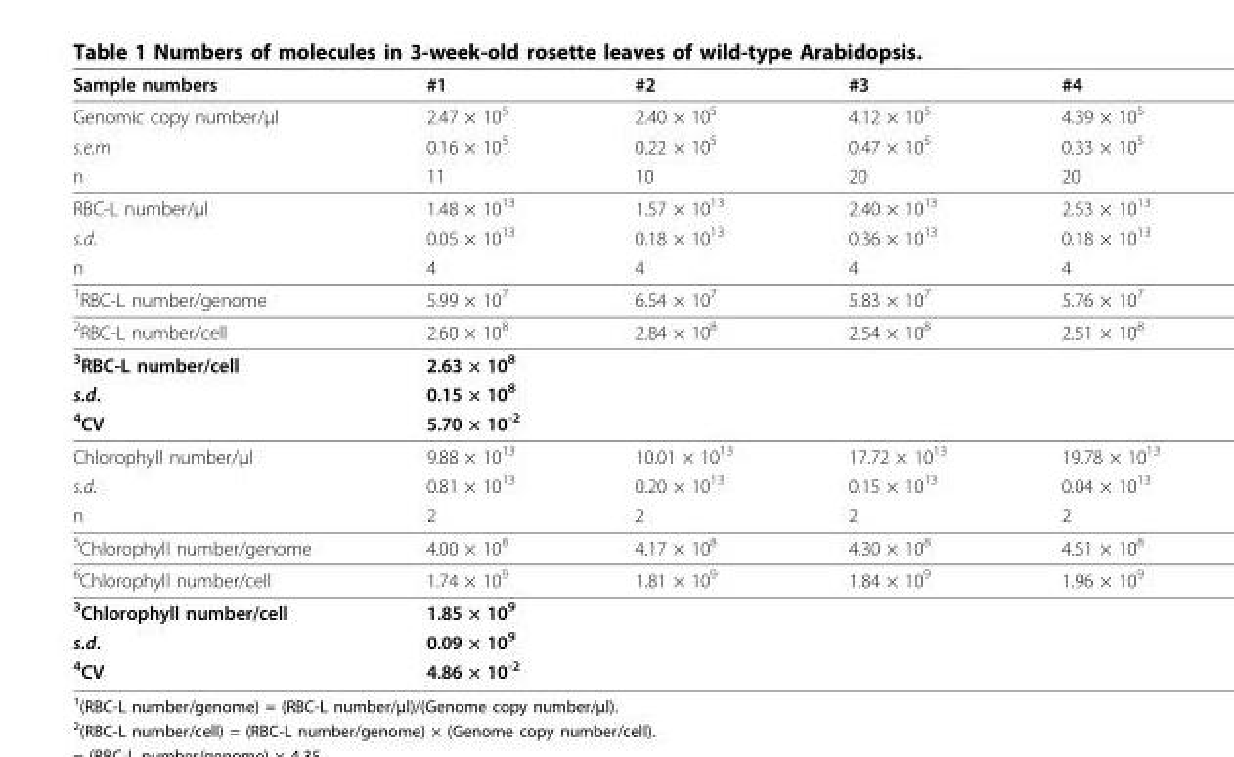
<table><thead><tr><td>Sample numbers</td><td>#1</td><td>#2</td><td>#3</td><td>#4</td></tr></thead><tbody><tr><td>Genomic copy number/μl</td><td>2.47 × 10<sup>5</sup></td><td>2.40 × 10<sup>5</sup></td><td>4.12 × 10<sup>5</sup></td><td>4.39 × 10<sup>5</sup></td></tr><tr><td>s.e.m</td><td>0.16 × 10<sup>5</sup></td><td>0.22 × 10<sup>5</sup></td><td>0.47 × 10<sup>5</sup></td><td>0.33 × 10<sup>5</sup></td></tr><tr><td>n</td><td>11</td><td>10</td><td>20</td><td>20</td></tr><tr><td>RBC-L number/μl</td><td>1.48 × 10<sup>13</sup></td><td>1.57 × 10<sup>13</sup></td><td>2.40 × 10<sup>13</sup></td><td>2.53 × 10<sup>13</sup></td></tr><tr><td>s.d.</td><td>0.05 × 10<sup>13</sup></td><td>0.18 × 10<sup>13</sup></td><td>0.36 × 10<sup>13</sup></td><td>0.18 × 10<sup>13</sup></td></tr><tr><td>n</td><td>4</td><td>4</td><td>4</td><td>4</td></tr><tr><td><sup>1</sup>RBC-L number/genome</td><td>5.99 × 10<sup>7</sup></td><td>6.54 × 10<sup>7</sup></td><td>5.83 × 10<sup>7</sup></td><td>5.76 × 10<sup>7</sup></td></tr><tr><td><sup>2</sup>RBC-L number/cell</td><td>2.60 × 10<sup>8</sup></td><td>2.84 × 10<sup>8</sup></td><td>2.54 × 10<sup>8</sup></td><td>2.51 × 10<sup>8</sup></td></tr><tr><td><sup>3</sup>RBC-L number/cell</td><td>2.63 × 10<sup>8</sup></td><td></td><td></td><td></td></tr><tr><td>s.d.</td><td>0.15 × 10<sup>8</sup></td><td></td><td></td><td></td></tr><tr><td><sup>4</sup>CV</td><td>5.70 × 10<sup>-2</sup></td><td></td><td></td><td></td></tr><tr><td>Chlorophyll number/μl</td><td>9.88 × 10<sup>13</sup></td><td>10.01 × 10<sup>13</sup></td><td>17.72 × 10<sup>13</sup></td><td>19.78 × 10<sup>13</sup></td></tr><tr><td>s.d.</td><td>0.81 × 10<sup>13</sup></td><td>0.20 × 10<sup>13</sup></td><td>0.15 × 10<sup>13</sup></td><td>0.04 × 10<sup>13</sup></td></tr><tr><td>n</td><td>2</td><td>2</td><td>2</td><td>2</td></tr><tr><td><sup>5</sup>Chlorophyll number/genome</td><td>4.00 × 10<sup>8</sup></td><td>4.17 × 10<sup>8</sup></td><td>4.30 × 10<sup>8</sup></td><td>4.51 × 10<sup>8</sup></td></tr><tr><td><sup>6</sup>Chlorophyll number/cell</td><td>1.74 × 10<sup>9</sup></td><td>1.81 × 10<sup>9</sup></td><td>1.84 × 10<sup>9</sup></td><td>1.96 × 10<sup>9</sup></td></tr><tr><td><sup>3</sup>Chlorophyll number/cell</td><td>1.85 × 10<sup>9</sup></td><td></td><td></td><td></td></tr><tr><td>s.d.</td><td>0.09 × 10<sup>9</sup></td><td></td><td></td><td></td></tr><tr><td><sup>4</sup>CV</td><td>4.86 × 10<sup>-2</sup></td><td></td><td></td><td></td></tr></tbody></table>